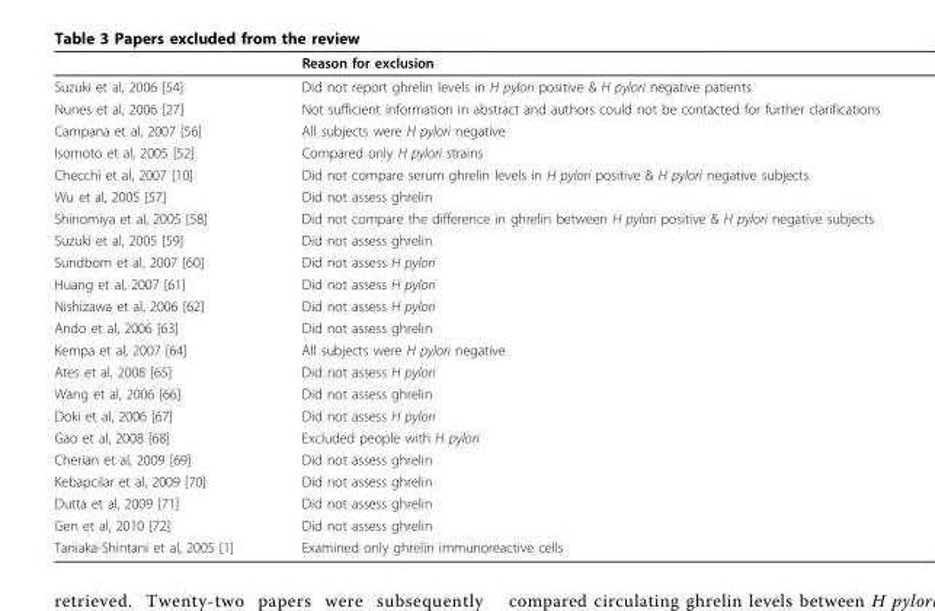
<table><thead><tr><td></td><td>Reason for exclusion</td></tr></thead><tbody><tr><td>Suzuki et al, 2006 [54]</td><td>Did not report ghrelin levels in H pylori positive &amp; H pylori negative patients</td></tr><tr><td>Nunes et al, 2006 [27]</td><td>Not sufficient information in abstract and authors could not be contacted for further clarifications</td></tr><tr><td>Campana et al, 2007 [56]</td><td>All subjects were H pylori negative</td></tr><tr><td>Isomoto et al, 2005 [52]</td><td>Compared only H pylori strains</td></tr><tr><td>Checchi et al, 2007 [10]</td><td>Did not compare serum ghrelin levels in H pylori positive &amp; H pylori negative subjects</td></tr><tr><td>Wu et al, 2005 [57]</td><td>Did not assess ghrelin</td></tr><tr><td>Shinomiya et al, 2005 [58]</td><td>Did not compare the difference in ghrelin between H pylori positive &amp; H pylori negative subjects</td></tr><tr><td>Suzuki et al, 2005 [59]</td><td>Did not assess ghrelin</td></tr><tr><td>Sundbom et al, 2007 [60]</td><td>Did not assess H pylori</td></tr><tr><td>Huang et al, 2007 [61]</td><td>Did not assess H pylori</td></tr><tr><td>Nishizawa et al, 2006 [62]</td><td>Did not assess H pylori</td></tr><tr><td>Ando et al, 2006 [63]</td><td>Did not assess ghrelin</td></tr><tr><td>Kempa et al, 2007 [64]</td><td>All subjects were H pylori negative</td></tr><tr><td>Ates et al, 2008 [65]</td><td>Did not assess H pylori</td></tr><tr><td>Wang et al, 2006 [66]</td><td>Did not assess ghrelin</td></tr><tr><td>Doki et al, 2006 [67]</td><td>Did not assess H pylori</td></tr><tr><td>Gao et al, 2008 [68]</td><td>Excluded people with H pylori</td></tr><tr><td>Cherian et al, 2009 [69]</td><td>Did not assess ghrelin</td></tr><tr><td>Kebapcilar et al, 2009 [70]</td><td>Did not assess ghrelin</td></tr><tr><td>Dutta et al, 2009 [71]</td><td>Did not assess ghrelin</td></tr><tr><td>Gen et al, 2010 [72]</td><td>Did not assess ghrelin</td></tr><tr><td>Taniaka-Shintani et al, 2005 [1]</td><td>Examined only ghrelin immunoreactive cells</td></tr></tbody></table>